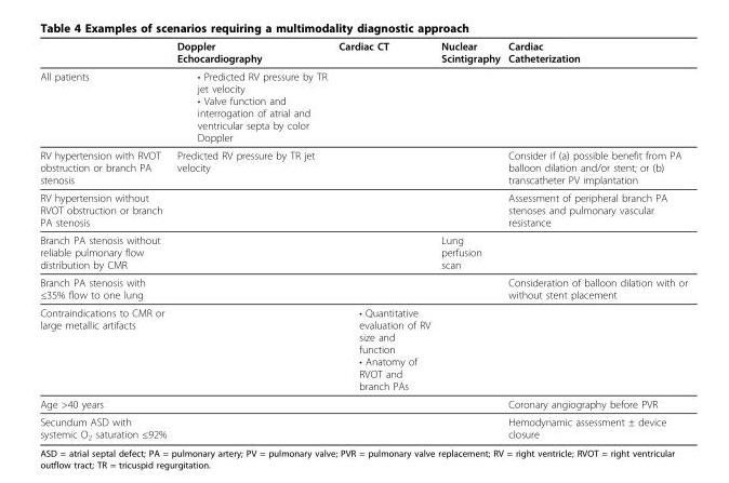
<table><thead><tr><td></td><td>Doppler Echocardiography</td><td>Cardiac CT</td><td>Nuclear Scintigraphy</td><td>Cardiac Catheterization</td></tr></thead><tbody><tr><td>All patients</td><td>• Predicted RV pressure by TR jet velocity • Valve function and interrogation of atrial and ventricular septa by color Doppler</td><td></td><td></td><td></td></tr><tr><td>RV hypertension with RVOT obstruction or branch PA stenosis</td><td>Predicted RV pressure by TR jet velocity</td><td></td><td></td><td>Consider if (a) possible benefit from PA balloon dilation and/or stent; or (b) transcatheter PV implantation</td></tr><tr><td>RV hypertension without RVOT obstruction or branch PA stenosis</td><td></td><td></td><td></td><td>Assessment of peripheral branch PA stenoses and pulmonary vascular resistance</td></tr><tr><td>Branch PA stenosis without reliable pulmonary flow distribution by CMR</td><td></td><td></td><td>Lung perfusion scan</td><td></td></tr><tr><td>Branch PA stenosis with ≤35% flow to one lung</td><td></td><td></td><td></td><td>Consideration of balloon dilation with or without stent placement</td></tr><tr><td>Contraindications to CMR or large metallic artifacts</td><td></td><td>• Quantitative evaluation of RV size and function • Anatomy of RVOT and branch PAs</td><td></td><td></td></tr><tr><td>Age &gt;40 years</td><td></td><td></td><td></td><td>Coronary angiography before PVR</td></tr><tr><td>Secundum ASD with systemic O<sub>2</sub> saturation ≤92%</td><td></td><td></td><td></td><td>Hemodynamic assessment ± device closure</td></tr></tbody></table>